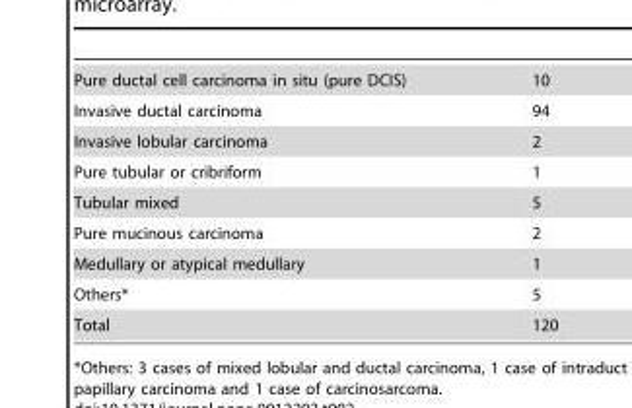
<table><tbody><tr><td>Pure ductal cell carcinoma in situ (pure DCIS)</td><td>10</td></tr><tr><td>Invasive ductal carcinoma</td><td>94</td></tr><tr><td>Invasive lobular carcinoma</td><td>2</td></tr><tr><td>Pure tubular or cribriform</td><td>1</td></tr><tr><td>Tubular mixed</td><td>5</td></tr><tr><td>Pure mucinous carcinoma</td><td>2</td></tr><tr><td>Medullary or atypical medullary</td><td>1</td></tr><tr><td>Others*</td><td>5</td></tr><tr><td>Total</td><td>120</td></tr></tbody></table>